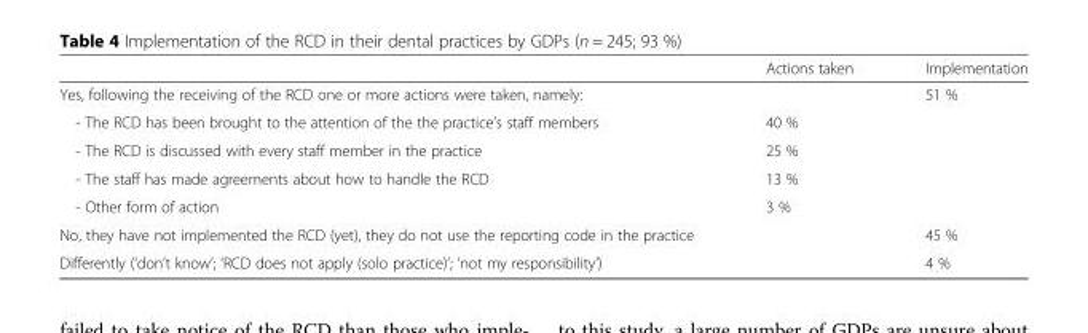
<table><thead><tr><td></td><td>Actions taken</td><td>Implementation</td></tr></thead><tbody><tr><td>Yes, following the receiving of the RCD one or more actions were taken, namely:</td><td></td><td>51 %</td></tr><tr><td>- The RCD has been brought to the attention of the the practice’s staff members</td><td>40 %</td><td></td></tr><tr><td>- The RCD is discussed with every staff member in the practice</td><td>25 %</td><td></td></tr><tr><td>- The staff has made agreements about how to handle the RCD</td><td>13 %</td><td></td></tr><tr><td>- Other form of action</td><td>3 %</td><td></td></tr><tr><td>No, they have not implemented the RCD (yet), they do not use the reporting code in the practice</td><td></td><td>45 %</td></tr><tr><td>Differently (‘don’t know’; ‘RCD does not apply (solo practice)’; ‘not my responsibility’)</td><td></td><td>4 %</td></tr></tbody></table>